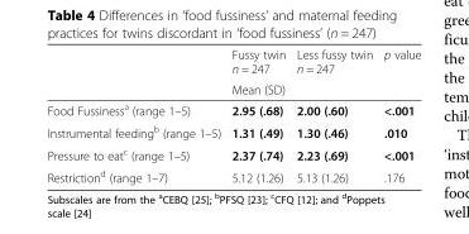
<table><thead><tr><td rowspan="2"></td><td>Fussy twin n = 247</td><td>Less fussy twin n = 247</td><td rowspan="2">p value</td></tr><tr><td colspan="2">Mean (SD)</td></tr></thead><tbody><tr><td>Food Fussiness<sup>a</sup> (range 1–5)</td><td>2.95 (.68)</td><td>2.00 (.60)</td><td>&lt;.001</td></tr><tr><td>Instrumental feeding<sup>b</sup> (range 1–5)</td><td>1.31 (.49)</td><td>1.30 (.46)</td><td>.010</td></tr><tr><td>Pressure to eat<sup>c</sup> (range 1–5)</td><td>2.37 (.74)</td><td>2.23 (.69)</td><td>&lt;.001</td></tr><tr><td>Restriction<sup>d</sup> (range 1–7)</td><td>5.12 (1.26)</td><td>5.13 (1.26)</td><td>.176</td></tr></tbody></table>